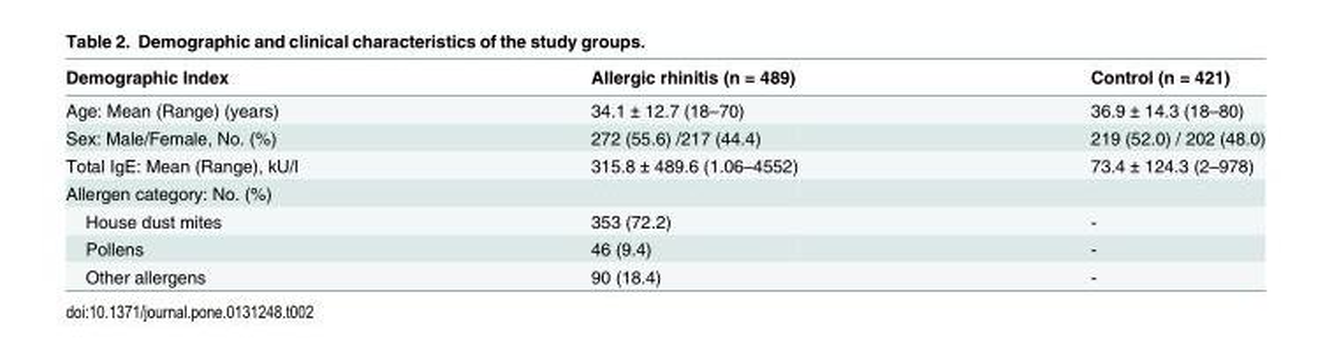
<table><thead><tr><td>Demographic Index</td><td>Allergic rhinitis (n = 489)</td><td>Control (n = 421)</td></tr></thead><tbody><tr><td>Age: Mean (Range) (years)</td><td>34.1 ± 12.7 (18–70)</td><td>36.9 ± 14.3 (18–80)</td></tr><tr><td>Sex: Male/Female, No. (%)</td><td>272 (55.6) /217 (44.4)</td><td>219 (52.0) / 202 (48.0)</td></tr><tr><td>Total IgE: Mean (Range), kU/l</td><td>315.8 ± 489.6 (1.06–4552)</td><td>73.4 ± 124.3 (2–978)</td></tr><tr><td colspan="3">Allergen category: No. (%)</td></tr><tr><td>House dust mites</td><td>353 (72.2)</td><td>-</td></tr><tr><td>Pollens</td><td>46 (9.4)</td><td>-</td></tr><tr><td>Other allergens</td><td>90 (18.4)</td><td>-</td></tr></tbody></table>